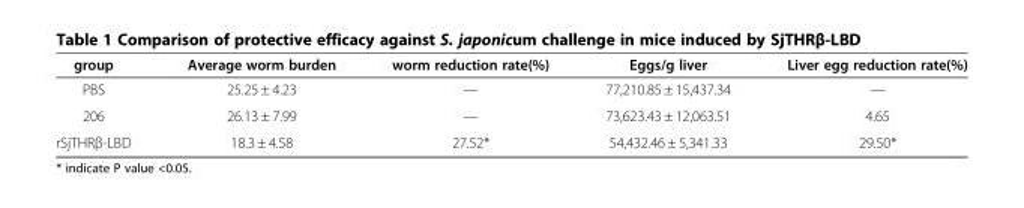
<table><thead><tr><td>group</td><td>Average worm burden</td><td>worm reduction rate(%)</td><td>Eggs/g liver</td><td>Liver egg reduction rate(%)</td></tr></thead><tbody><tr><td>PBS</td><td>25.25 ± 4.23</td><td>—</td><td>77,210.85 ± 15,437.34</td><td>—</td></tr><tr><td>206</td><td>26.13 ± 7.99</td><td>—</td><td>73,623.43 ± 12,063.51</td><td>4.65</td></tr><tr><td>rSjTHRβ-LBD</td><td>18.3 ± 4.58</td><td>27.52*</td><td>54,432.46 ± 5,341.33</td><td>29.50*</td></tr></tbody></table>